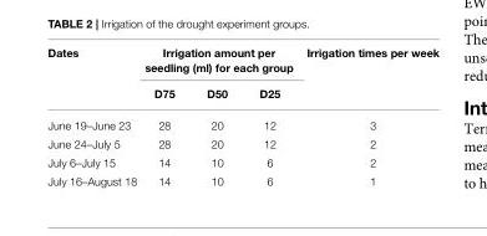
<table><thead><tr><td rowspan="2">Dates</td><td colspan="3">Irrigation amount per seedling (ml) for each group</td><td rowspan="2">Irrigation times per week</td></tr><tr><td>D75</td><td>D50</td><td>D25</td></tr></thead><tbody><tr><td>June 19–June 23</td><td>28</td><td>20</td><td>12</td><td>3</td></tr><tr><td>June 24–July 5</td><td>28</td><td>20</td><td>12</td><td>2</td></tr><tr><td>July 6–July 15</td><td>14</td><td>10</td><td>6</td><td>2</td></tr><tr><td>July 16–August 18</td><td>14</td><td>10</td><td>6</td><td>1</td></tr></tbody></table>